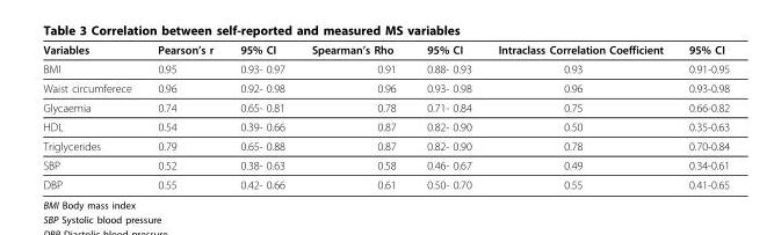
<table><thead><tr><td>Variables</td><td>Pearson’s r</td><td>95% CI</td><td>Spearman’s Rho</td><td>95% CI</td><td>Intraclass Correlation Coefficient</td><td>95% CI</td></tr></thead><tbody><tr><td>BMI</td><td>0.95</td><td>0.93- 0.97</td><td>0.91</td><td>0.88- 0.93</td><td>0.93</td><td>0.91-0.95</td></tr><tr><td>Waist circumferece</td><td>0.96</td><td>0.92- 0.98</td><td>0.96</td><td>0.93- 0.98</td><td>0.96</td><td>0.93-0.98</td></tr><tr><td>Glycaemia</td><td>0.74</td><td>0.65- 0.81</td><td>0.78</td><td>0.71- 0.84</td><td>0.75</td><td>0.66-0.82</td></tr><tr><td>HDL</td><td>0.54</td><td>0.39- 0.66</td><td>0.87</td><td>0.82- 0.90</td><td>0.50</td><td>0.35-0.63</td></tr><tr><td>Triglycerides</td><td>0.79</td><td>0.65- 0.88</td><td>0.87</td><td>0.82- 0.90</td><td>0.78</td><td>0.70-0.84</td></tr><tr><td>SBP</td><td>0.52</td><td>0.38- 0.63</td><td>0.58</td><td>0.46- 0.67</td><td>0.49</td><td>0.34-0.61</td></tr><tr><td>DBP</td><td>0.55</td><td>0.42- 0.66</td><td>0.61</td><td>0.50- 0.70</td><td>0.55</td><td>0.41-0.65</td></tr></tbody></table>